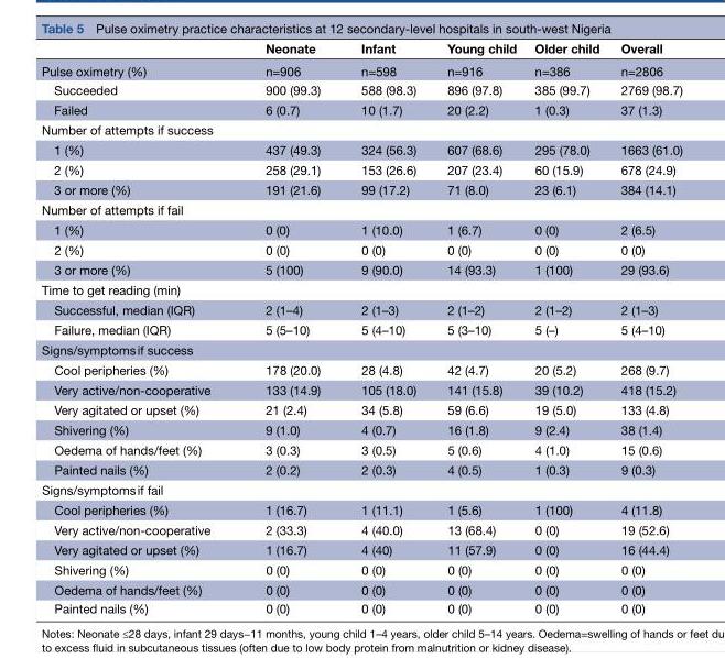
<table><thead><tr><td></td><td>Neonate</td><td>Infant</td><td>Young child</td><td>Older child</td><td>Overall</td></tr></thead><tbody><tr><td>Pulse oximetry (%)</td><td>n=906</td><td>n=598</td><td>n=916</td><td>n=386</td><td>n=2806</td></tr><tr><td>Succeeded</td><td>900 (99.3)</td><td>588 (98.3)</td><td>896 (97.8)</td><td>385 (99.7)</td><td>2769 (98.7)</td></tr><tr><td>Failed</td><td>6 (0.7)</td><td>10 (1.7)</td><td>20 (2.2)</td><td>1 (0.3)</td><td>37 (1.3)</td></tr><tr><td colspan="6">Number of attempts if success</td></tr><tr><td>1 (%)</td><td>437 (49.3)</td><td>324 (56.3)</td><td>607 (68.6)</td><td>295 (78.0)</td><td>1663 (61.0)</td></tr><tr><td>2 (%)</td><td>258 (29.1)</td><td>153 (26.6)</td><td>207 (23.4)</td><td>60 (15.9)</td><td>678 (24.9)</td></tr><tr><td>3 or more (%)</td><td>191 (21.6)</td><td>99 (17.2)</td><td>71 (8.0)</td><td>23 (6.1)</td><td>384 (14.1)</td></tr><tr><td colspan="6">Number of attempts if fail</td></tr><tr><td>1 (%)</td><td>0 (0)</td><td>1 (10.0)</td><td>1 (6.7)</td><td>0 (0)</td><td>2 (6.5)</td></tr><tr><td>2 (%)</td><td>0 (0)</td><td>0 (0)</td><td>0 (0)</td><td>0 (0)</td><td>0 (0)</td></tr><tr><td>3 or more (%)</td><td>5 (100)</td><td>9 (90.0)</td><td>14 (93.3)</td><td>1 (100)</td><td>29 (93.6)</td></tr><tr><td colspan="6">Time to get reading (min)</td></tr><tr><td>Successful, median (IQR)</td><td>2 (1–4)</td><td>2 (1–3)</td><td>2 (1–2)</td><td>2 (1–2)</td><td>2 (1–3)</td></tr><tr><td>Failure, median (IQR)</td><td>5 (5–10)</td><td>5 (4–10)</td><td>5 (3–10)</td><td>5 (–)</td><td>5 (4–10)</td></tr><tr><td colspan="6">Signs/symptoms if success</td></tr><tr><td>Cool peripheries (%)</td><td>178 (20.0)</td><td>28 (4.8)</td><td>42 (4.7)</td><td>20 (5.2)</td><td>268 (9.7)</td></tr><tr><td>Very active/non-cooperative</td><td>133 (14.9)</td><td>105 (18.0)</td><td>141 (15.8)</td><td>39 (10.2)</td><td>418 (15.2)</td></tr><tr><td>Very agitated or upset (%)</td><td>21 (2.4)</td><td>34 (5.8)</td><td>59 (6.6)</td><td>19 (5.0)</td><td>133 (4.8)</td></tr><tr><td>Shivering (%)</td><td>9 (1.0)</td><td>4 (0.7)</td><td>16 (1.8)</td><td>9 (2.4)</td><td>38 (1.4)</td></tr><tr><td>Oedema of hands/feet (%)</td><td>3 (0.3)</td><td>3 (0.5)</td><td>5 (0.6)</td><td>4 (1.0)</td><td>15 (0.6)</td></tr><tr><td>Painted nails (%)</td><td>2 (0.2)</td><td>2 (0.3)</td><td>4 (0.5)</td><td>1 (0.3)</td><td>9 (0.3)</td></tr><tr><td colspan="6">Signs/symptoms if fail</td></tr><tr><td>Cool peripheries (%)</td><td>1 (16.7)</td><td>1 (11.1)</td><td>1 (5.6)</td><td>1 (100)</td><td>4 (11.8)</td></tr><tr><td>Very active/non-cooperative</td><td>2 (33.3)</td><td>4 (40.0)</td><td>13 (68.4)</td><td>0 (0)</td><td>19 (52.6)</td></tr><tr><td>Very agitated or upset (%)</td><td>1 (16.7)</td><td>4 (40)</td><td>11 (57.9)</td><td>0 (0)</td><td>16 (44.4)</td></tr><tr><td>Shivering (%)</td><td>0 (0)</td><td>0 (0)</td><td>0 (0)</td><td>0 (0)</td><td>0 (0)</td></tr><tr><td>Oedema of hands/feet (%)</td><td>0 (0)</td><td>0 (0)</td><td>0 (0)</td><td>0 (0)</td><td>0 (0)</td></tr><tr><td>Painted nails (%)</td><td>0 (0)</td><td>0 (0)</td><td>0 (0)</td><td>0 (0)</td><td>0 (0)</td></tr></tbody></table>